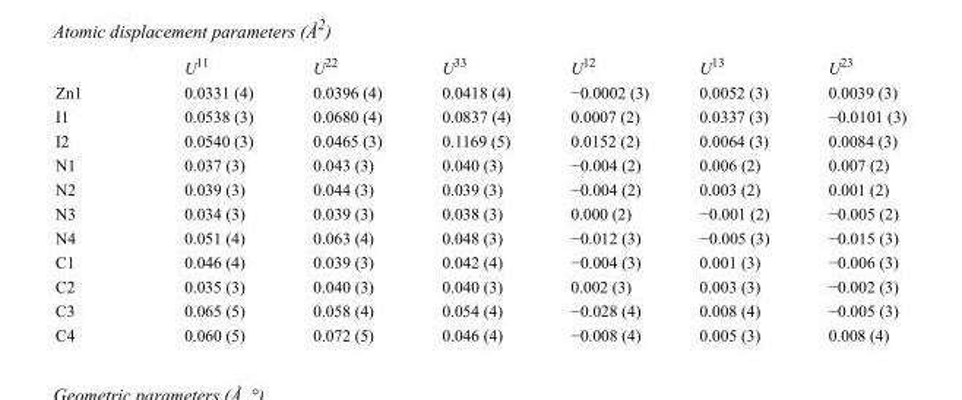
<table><thead><tr><td></td><td>U<sup>11</sup></td><td>U<sup>22</sup></td><td>U<sup>33</sup></td><td>U<sup>12</sup></td><td>U<sup>13</sup></td><td>U<sup>23</sup></td></tr></thead><tbody><tr><td>Zn1</td><td>0.0331 (4)</td><td>0.0396 (4)</td><td>0.0418 (4)</td><td>−0.0002 (3)</td><td>0.0052 (3)</td><td>0.0039 (3)</td></tr><tr><td>I1</td><td>0.0538 (3)</td><td>0.0680 (4)</td><td>0.0837 (4)</td><td>0.0007 (2)</td><td>0.0337 (3)</td><td>−0.0101 (3)</td></tr><tr><td>I2</td><td>0.0540 (3)</td><td>0.0465 (3)</td><td>0.1169 (5)</td><td>0.0152 (2)</td><td>0.0064 (3)</td><td>0.0084 (3)</td></tr><tr><td>N1</td><td>0.037 (3)</td><td>0.043 (3)</td><td>0.040 (3)</td><td>−0.004 (2)</td><td>0.006 (2)</td><td>0.007 (2)</td></tr><tr><td>N2</td><td>0.039 (3)</td><td>0.044 (3)</td><td>0.039 (3)</td><td>−0.004 (2)</td><td>0.003 (2)</td><td>0.001 (2)</td></tr><tr><td>N3</td><td>0.034 (3)</td><td>0.039 (3)</td><td>0.038 (3)</td><td>0.000 (2)</td><td>−0.001 (2)</td><td>−0.005 (2)</td></tr><tr><td>N4</td><td>0.051 (4)</td><td>0.063 (4)</td><td>0.048 (3)</td><td>−0.012 (3)</td><td>−0.005 (3)</td><td>−0.015 (3)</td></tr><tr><td>C1</td><td>0.046 (4)</td><td>0.039 (3)</td><td>0.042 (4)</td><td>−0.004 (3)</td><td>0.001 (3)</td><td>−0.006 (3)</td></tr><tr><td>C2</td><td>0.035 (3)</td><td>0.040 (3)</td><td>0.040 (3)</td><td>0.002 (3)</td><td>0.003 (3)</td><td>−0.002 (3)</td></tr><tr><td>C3</td><td>0.065 (5)</td><td>0.058 (4)</td><td>0.054 (4)</td><td>−0.028 (4)</td><td>0.008 (4)</td><td>−0.005 (3)</td></tr><tr><td>C4</td><td>0.060 (5)</td><td>0.072 (5)</td><td>0.046 (4)</td><td>−0.008 (4)</td><td>0.005 (3)</td><td>0.008 (4)</td></tr></tbody></table>